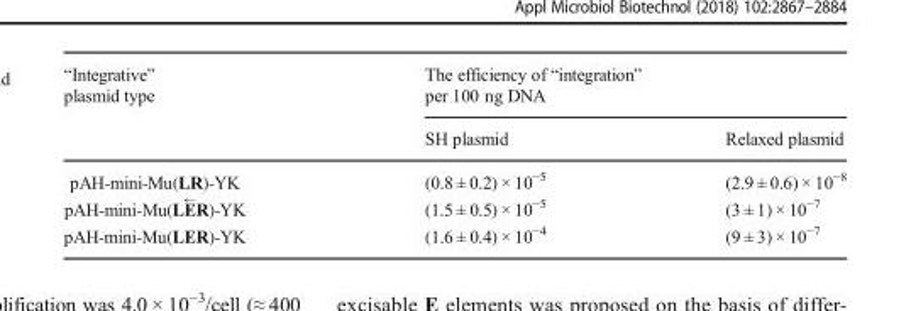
<table><thead><tr><td rowspan="2">“Integrative” plasmid type</td><td colspan="2">The efficiency of “integration” per 100 ng DNA</td></tr><tr><td>SH plasmid</td><td>Relaxed plasmid</td></tr></thead><tbody><tr><td>pAH-mini-Mu(LR)-YK</td><td>(0.8 ± 0.2) × 10<sup>−5</sup></td><td>(2.9 ± 0.6) × 10<sup>−8</sup></td></tr><tr><td>pAH-mini-Mu(L ←ER)-YK</td><td>(1.5 ± 0.5) × 10<sup>−5</sup></td><td>(3 ± 1) × 10<sup>−7</sup></td></tr><tr><td>pAH-mini-Mu(LER)-YK</td><td>(1.6 ± 0.4) × 10<sup>−4</sup></td><td>(9 ± 3) × 10<sup>−7</sup></td></tr></tbody></table>